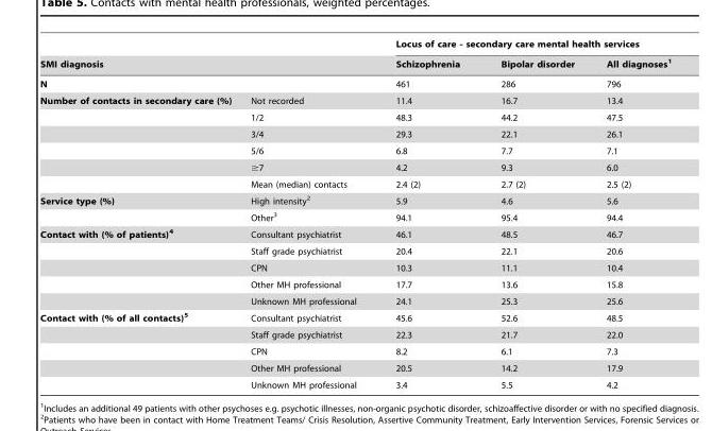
<table><thead><tr><td></td><td></td><td colspan="3">Locus of care - secondary care mental health services</td></tr><tr><td colspan="2">SMI diagnosis</td><td>Schizophrenia</td><td>Bipolar disorder</td><td>All diagnoses<sup>1</sup></td></tr></thead><tbody><tr><td colspan="2">N</td><td>461</td><td>286</td><td>796</td></tr><tr><td rowspan="6">Number of contacts in secondary care (%)</td><td>Not recorded</td><td>11.4</td><td>16.7</td><td>13.4</td></tr><tr><td>1/2</td><td>48.3</td><td>44.2</td><td>47.5</td></tr><tr><td>3/4</td><td>29.3</td><td>22.1</td><td>26.1</td></tr><tr><td>5/6</td><td>6.8</td><td>7.7</td><td>7.1</td></tr><tr><td>≥7</td><td>4.2</td><td>9.3</td><td>6.0</td></tr><tr><td>Mean (median) contacts</td><td>2.4 (2)</td><td>2.7 (2)</td><td>2.5 (2)</td></tr><tr><td rowspan="2">Service type (%)</td><td>High intensity<sup>2</sup></td><td>5.9</td><td>4.6</td><td>5.6</td></tr><tr><td>Other<sup>3</sup></td><td>94.1</td><td>95.4</td><td>94.4</td></tr><tr><td rowspan="5">Contact with (% of patients)4</td><td>Consultant psychiatrist</td><td>46.1</td><td>48.5</td><td>46.7</td></tr><tr><td>Staff grade psychiatrist</td><td>20.4</td><td>22.1</td><td>20.6</td></tr><tr><td>CPN</td><td>10.3</td><td>11.1</td><td>10.4</td></tr><tr><td>Other MH professional</td><td>17.7</td><td>13.6</td><td>15.8</td></tr><tr><td>Unknown MH professional</td><td>24.1</td><td>25.3</td><td>25.6</td></tr><tr><td rowspan="5">Contact with (% of all contacts)5</td><td>Consultant psychiatrist</td><td>45.6</td><td>52.6</td><td>48.5</td></tr><tr><td>Staff grade psychiatrist</td><td>22.3</td><td>21.7</td><td>22.0</td></tr><tr><td>CPN</td><td>8.2</td><td>6.1</td><td>7.3</td></tr><tr><td>Other MH professional</td><td>20.5</td><td>14.2</td><td>17.9</td></tr><tr><td>Unknown MH professional</td><td>3.4</td><td>5.5</td><td>4.2</td></tr></tbody></table>